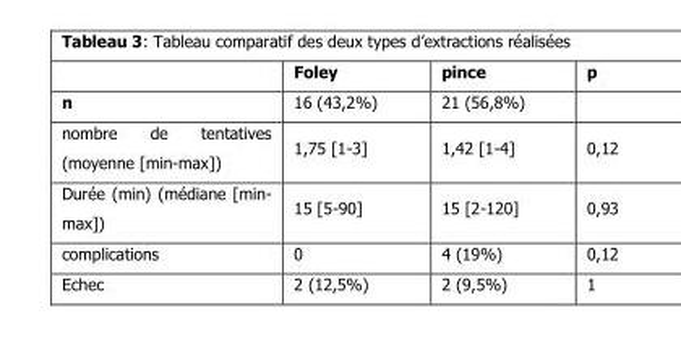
<table><thead><tr><td></td><td>Foley</td><td>pince</td><td>p</td></tr></thead><tbody><tr><td>n</td><td>16 (43,2%)</td><td>21 (56,8%)</td><td></td></tr><tr><td>nombre de tentatives (moyenne [min-max])</td><td>1,75 [1-3]</td><td>1,42 [1-4]</td><td>0,12</td></tr><tr><td>Durée (min) (médiane [min- max])</td><td>15 [5-90]</td><td>15 [2-120]</td><td>0,93</td></tr><tr><td>complications</td><td>0</td><td>4 (19%)</td><td>0,12</td></tr><tr><td>Echec</td><td>2 (12,5%)</td><td>2 (9,5%)</td><td>1</td></tr></tbody></table>